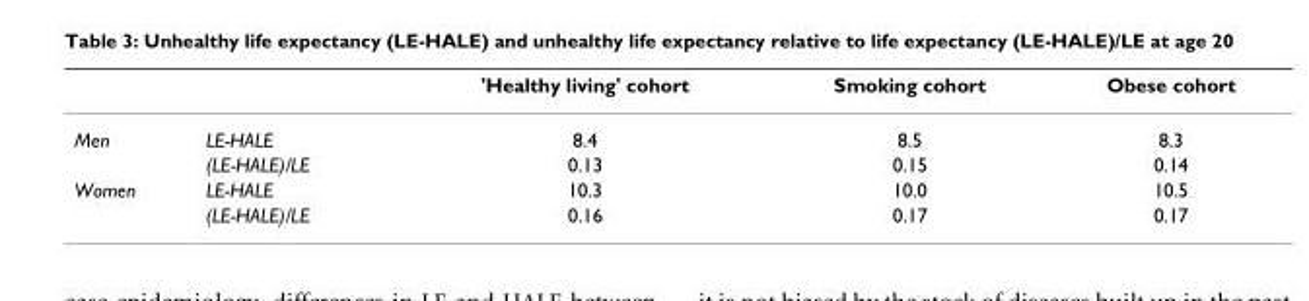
<table><thead><tr><td></td><td></td><td>&#x27;Healthy living&#x27; cohort</td><td>Smoking cohort</td><td>Obese cohort</td></tr></thead><tbody><tr><td rowspan="2">Men</td><td>LE-HALE</td><td>8.4</td><td>8.5</td><td>8.3</td></tr><tr><td>(LE-HALE)/LE</td><td>0.13</td><td>0.15</td><td>0.14</td></tr><tr><td rowspan="2">Women</td><td>LE-HALE</td><td>10.3</td><td>10.0</td><td>10.5</td></tr><tr><td>(LE-HALE)/LE</td><td>0.16</td><td>0.17</td><td>0.17</td></tr></tbody></table>